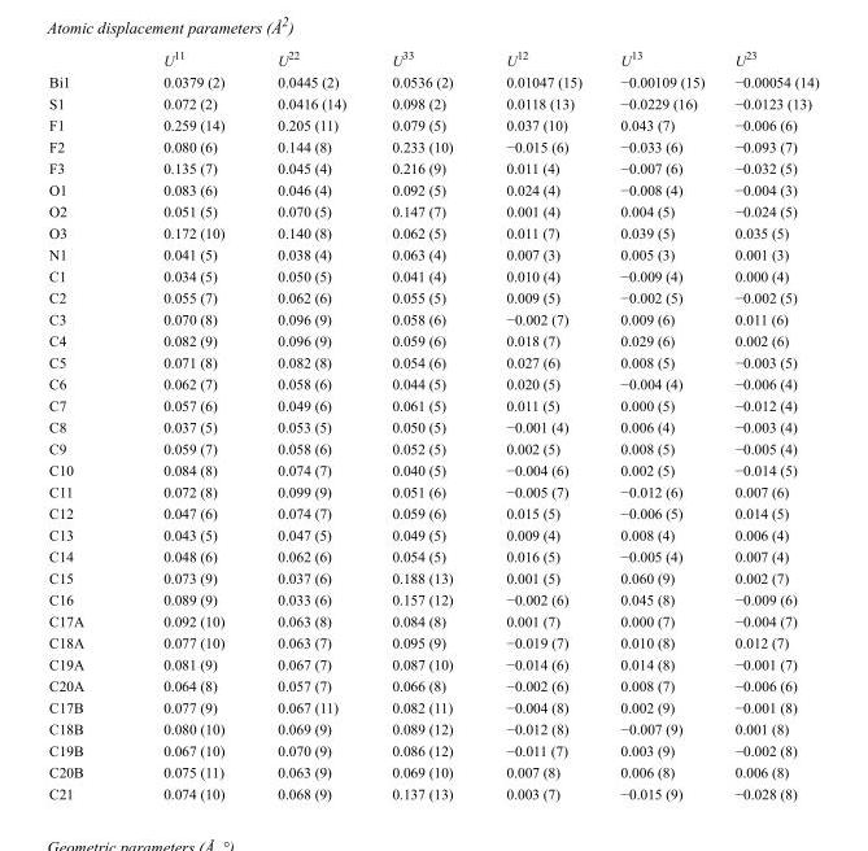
<table><thead><tr><td></td><td>U<sup>11</sup></td><td>U<sup>22</sup></td><td>U<sup>33</sup></td><td>U<sup>12</sup></td><td>U<sup>13</sup></td><td>U<sup>23</sup></td></tr></thead><tbody><tr><td>Bi1</td><td>0.0379 (2)</td><td>0.0445 (2)</td><td>0.0536 (2)</td><td>0.01047 (15)</td><td>−0.00109 (15)</td><td>−0.00054 (14)</td></tr><tr><td>S1</td><td>0.072 (2)</td><td>0.0416 (14)</td><td>0.098 (2)</td><td>0.0118 (13)</td><td>−0.0229 (16)</td><td>−0.0123 (13)</td></tr><tr><td>F1</td><td>0.259 (14)</td><td>0.205 (11)</td><td>0.079 (5)</td><td>0.037 (10)</td><td>0.043 (7)</td><td>−0.006 (6)</td></tr><tr><td>F2</td><td>0.080 (6)</td><td>0.144 (8)</td><td>0.233 (10)</td><td>−0.015 (6)</td><td>−0.033 (6)</td><td>−0.093 (7)</td></tr><tr><td>F3</td><td>0.135 (7)</td><td>0.045 (4)</td><td>0.216 (9)</td><td>0.011 (4)</td><td>−0.007 (6)</td><td>−0.032 (5)</td></tr><tr><td>O1</td><td>0.083 (6)</td><td>0.046 (4)</td><td>0.092 (5)</td><td>0.024 (4)</td><td>−0.008 (4)</td><td>−0.004 (3)</td></tr><tr><td>O2</td><td>0.051 (5)</td><td>0.070 (5)</td><td>0.147 (7)</td><td>0.001 (4)</td><td>0.004 (5)</td><td>−0.024 (5)</td></tr><tr><td>O3</td><td>0.172 (10)</td><td>0.140 (8)</td><td>0.062 (5)</td><td>0.011 (7)</td><td>0.039 (5)</td><td>0.035 (5)</td></tr><tr><td>N1</td><td>0.041 (5)</td><td>0.038 (4)</td><td>0.063 (4)</td><td>0.007 (3)</td><td>0.005 (3)</td><td>0.001 (3)</td></tr><tr><td>C1</td><td>0.034 (5)</td><td>0.050 (5)</td><td>0.041 (4)</td><td>0.010 (4)</td><td>−0.009 (4)</td><td>0.000 (4)</td></tr><tr><td>C2</td><td>0.055 (7)</td><td>0.062 (6)</td><td>0.055 (5)</td><td>0.009 (5)</td><td>−0.002 (5)</td><td>−0.002 (5)</td></tr><tr><td>C3</td><td>0.070 (8)</td><td>0.096 (9)</td><td>0.058 (6)</td><td>−0.002 (7)</td><td>0.009 (6)</td><td>0.011 (6)</td></tr><tr><td>C4</td><td>0.082 (9)</td><td>0.096 (9)</td><td>0.059 (6)</td><td>0.018 (7)</td><td>0.029 (6)</td><td>0.002 (6)</td></tr><tr><td>C5</td><td>0.071 (8)</td><td>0.082 (8)</td><td>0.054 (6)</td><td>0.027 (6)</td><td>0.008 (5)</td><td>−0.003 (5)</td></tr><tr><td>C6</td><td>0.062 (7)</td><td>0.058 (6)</td><td>0.044 (5)</td><td>0.020 (5)</td><td>−0.004 (4)</td><td>−0.006 (4)</td></tr><tr><td>C7</td><td>0.057 (6)</td><td>0.049 (6)</td><td>0.061 (5)</td><td>0.011 (5)</td><td>0.000 (5)</td><td>−0.012 (4)</td></tr><tr><td>C8</td><td>0.037 (5)</td><td>0.053 (5)</td><td>0.050 (5)</td><td>−0.001 (4)</td><td>0.006 (4)</td><td>−0.003 (4)</td></tr><tr><td>C9</td><td>0.059 (7)</td><td>0.058 (6)</td><td>0.052 (5)</td><td>0.002 (5)</td><td>0.008 (5)</td><td>−0.005 (4)</td></tr><tr><td>C10</td><td>0.084 (8)</td><td>0.074 (7)</td><td>0.040 (5)</td><td>−0.004 (6)</td><td>0.002 (5)</td><td>−0.014 (5)</td></tr><tr><td>C11</td><td>0.072 (8)</td><td>0.099 (9)</td><td>0.051 (6)</td><td>−0.005 (7)</td><td>−0.012 (6)</td><td>0.007 (6)</td></tr><tr><td>C12</td><td>0.047 (6)</td><td>0.074 (7)</td><td>0.059 (6)</td><td>0.015 (5)</td><td>−0.006 (5)</td><td>0.014 (5)</td></tr><tr><td>C13</td><td>0.043 (5)</td><td>0.047 (5)</td><td>0.049 (5)</td><td>0.009 (4)</td><td>0.008 (4)</td><td>0.006 (4)</td></tr><tr><td>C14</td><td>0.048 (6)</td><td>0.062 (6)</td><td>0.054 (5)</td><td>0.016 (5)</td><td>−0.005 (4)</td><td>0.007 (4)</td></tr><tr><td>C15</td><td>0.073 (9)</td><td>0.037 (6)</td><td>0.188 (13)</td><td>0.001 (5)</td><td>0.060 (9)</td><td>0.002 (7)</td></tr><tr><td>C16</td><td>0.089 (9)</td><td>0.033 (6)</td><td>0.157 (12)</td><td>−0.002 (6)</td><td>0.045 (8)</td><td>−0.009 (6)</td></tr><tr><td>C17A</td><td>0.092 (10)</td><td>0.063 (8)</td><td>0.084 (8)</td><td>0.001 (7)</td><td>0.000 (7)</td><td>−0.004 (7)</td></tr><tr><td>C18A</td><td>0.077 (10)</td><td>0.063 (7)</td><td>0.095 (9)</td><td>−0.019 (7)</td><td>0.010 (8)</td><td>0.012 (7)</td></tr><tr><td>C19A</td><td>0.081 (9)</td><td>0.067 (7)</td><td>0.087 (10)</td><td>−0.014 (6)</td><td>0.014 (8)</td><td>−0.001 (7)</td></tr><tr><td>C20A</td><td>0.064 (8)</td><td>0.057 (7)</td><td>0.066 (8)</td><td>−0.002 (6)</td><td>0.008 (7)</td><td>−0.006 (6)</td></tr><tr><td>C17B</td><td>0.077 (9)</td><td>0.067 (11)</td><td>0.082 (11)</td><td>−0.004 (8)</td><td>0.002 (9)</td><td>−0.001 (8)</td></tr><tr><td>C18B</td><td>0.080 (10)</td><td>0.069 (9)</td><td>0.089 (12)</td><td>−0.012 (8)</td><td>−0.007 (9)</td><td>0.001 (8)</td></tr><tr><td>C19B</td><td>0.067 (10)</td><td>0.070 (9)</td><td>0.086 (12)</td><td>−0.011 (7)</td><td>0.003 (9)</td><td>−0.002 (8)</td></tr><tr><td>C20B</td><td>0.075 (11)</td><td>0.063 (9)</td><td>0.069 (10)</td><td>0.007 (8)</td><td>0.006 (8)</td><td>0.006 (8)</td></tr><tr><td>C21</td><td>0.074 (10)</td><td>0.068 (9)</td><td>0.137 (13)</td><td>0.003 (7)</td><td>−0.015 (9)</td><td>−0.028 (8)</td></tr></tbody></table>